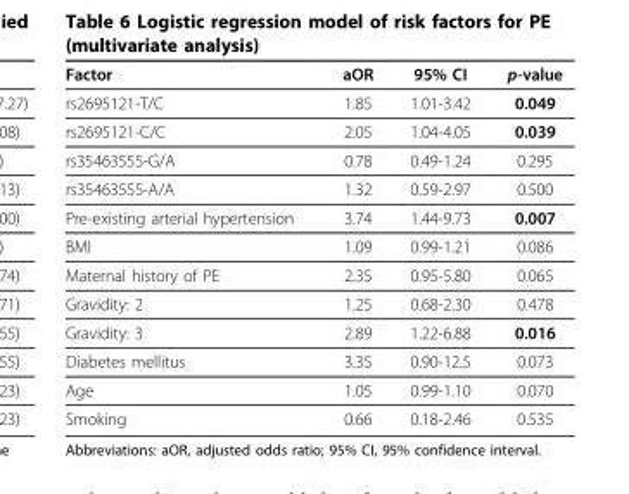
<table><thead><tr><td>Factor</td><td>aOR</td><td>95% CI</td><td>p-value</td></tr></thead><tbody><tr><td>rs2695121-T/C</td><td>1.85</td><td>1.01-3.42</td><td>0.049</td></tr><tr><td>rs2695121-C/C</td><td>2.05</td><td>1.04-4.05</td><td>0.039</td></tr><tr><td>rs35463555-G/A</td><td>0.78</td><td>0.49-1.24</td><td>0.295</td></tr><tr><td>rs35463555-A/A</td><td>1.32</td><td>0.59-2.97</td><td>0.500</td></tr><tr><td>Pre-existing arterial hypertension</td><td>3.74</td><td>1.44-9.73</td><td>0.007</td></tr><tr><td>BMI</td><td>1.09</td><td>0.99-1.21</td><td>0.086</td></tr><tr><td>Maternal history of PE</td><td>2.35</td><td>0.95-5.80</td><td>0.065</td></tr><tr><td>Gravidity: 2</td><td>1.25</td><td>0.68-2.30</td><td>0.478</td></tr><tr><td>Gravidity: 3</td><td>2.89</td><td>1.22-6.88</td><td>0.016</td></tr><tr><td>Diabetes mellitus</td><td>3.35</td><td>0.90-12.5</td><td>0.073</td></tr><tr><td>Age</td><td>1.05</td><td>0.99-1.10</td><td>0.070</td></tr><tr><td>Smoking</td><td>0.66</td><td>0.18-2.46</td><td>0.535</td></tr></tbody></table>